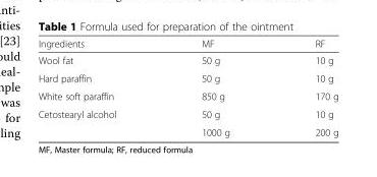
<table><thead><tr><td>Ingredients</td><td>MF</td><td>RF</td></tr></thead><tbody><tr><td>Wool fat</td><td>50 g</td><td>10 g</td></tr><tr><td>Hard paraffin</td><td>50 g</td><td>10 g</td></tr><tr><td>White soft paraffin</td><td>850 g</td><td>170 g</td></tr><tr><td rowspan="2">Cetostearyl alcohol</td><td>50 g</td><td>10 g</td></tr><tr><td>1000 g</td><td>200 g</td></tr></tbody></table>